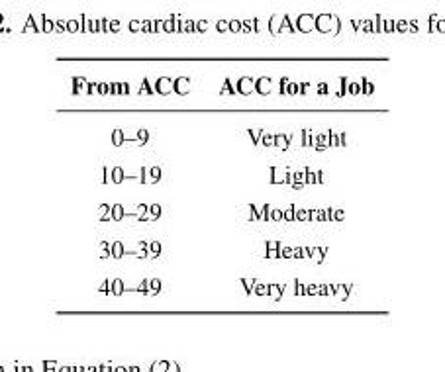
<table><thead><tr><td>From ACC</td><td>ACC for a Job</td></tr></thead><tbody><tr><td>0–9</td><td>Very light</td></tr><tr><td>10–19</td><td>Light</td></tr><tr><td>20–29</td><td>Moderate</td></tr><tr><td>30–39</td><td>Heavy</td></tr><tr><td>40–49</td><td>Very heavy</td></tr></tbody></table>